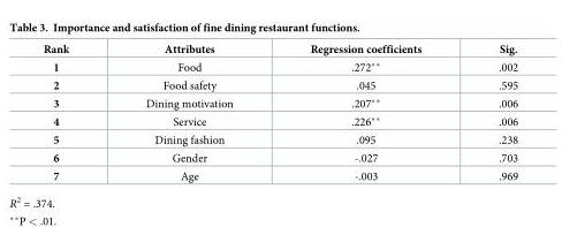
<table><thead><tr><td>Rank</td><td>Attributes</td><td>Regression coefficients</td><td>Sig.</td></tr></thead><tbody><tr><td>1</td><td>Food</td><td>.272**</td><td>.002</td></tr><tr><td>2</td><td>Food safety</td><td>.045</td><td>.595</td></tr><tr><td>3</td><td>Dining motivation</td><td>.207**</td><td>.006</td></tr><tr><td>4</td><td>Service</td><td>.226**</td><td>.006</td></tr><tr><td>5</td><td>Dining fashion</td><td>.095</td><td>.238</td></tr><tr><td>6</td><td>Gender</td><td>-.027</td><td>.703</td></tr><tr><td>7</td><td>Age</td><td>-.003</td><td>.969</td></tr></tbody></table>